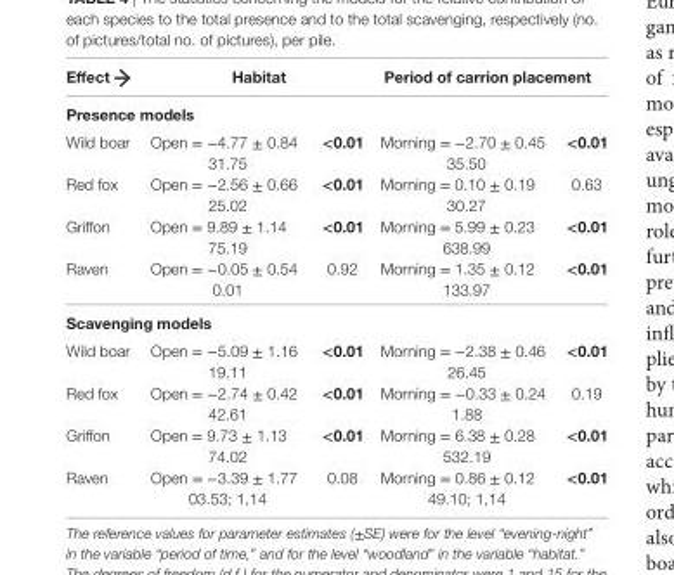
<table><thead><tr><td>effect</td><td colspan="2">habitat</td><td colspan="2">Period of carrion placement</td></tr><tr><td colspan="5">Presence models</td></tr><tr><td>Wild boar</td><td>Open = −4.77 ± 0.84 31.75</td><td>&lt;0.01</td><td>Morning = −2.70 ± 0.45 35.50</td><td>&lt;0.01</td></tr></thead><tbody><tr><td>Red fox</td><td>Open = −2.56 ± 0.66 25.02</td><td>&lt;0.01</td><td>Morning = 0.10 ± 0.19 30.27</td><td>0.63</td></tr><tr><td>Griffon</td><td>Open = 9.89 ± 1.14 75.19</td><td>&lt;0.01</td><td>Morning = 5.99 ± 0.23 638.99</td><td>&lt;0.01</td></tr><tr><td>Raven</td><td>Open = −0.05 ± 0.54 0.01</td><td>0.92</td><td>Morning = 1.35 ± 0.12 133.97</td><td>&lt;0.01</td></tr><tr><td colspan="5">scavenging models</td></tr><tr><td>Wild boar</td><td>Open = −5.09 ± 1.16 19.11</td><td>&lt;0.01</td><td>Morning = −2.38 ± 0.46 26.45</td><td>&lt;0.01</td></tr><tr><td>Red fox</td><td>Open = −2.74 ± 0.42 42.61</td><td>&lt;0.01</td><td>Morning = −0.33 ± 0.24 1.88</td><td>0.19</td></tr><tr><td>Griffon</td><td>Open = 9.73 ± 1.13 74.02</td><td>&lt;0.01</td><td>Morning = 6.38 ± 0.28 532.19</td><td>&lt;0.01</td></tr><tr><td>Raven</td><td>Open = −3.39 ± 1.77 03.53; 1,14</td><td>0.08</td><td>Morning = 0.86 ± 0.12 49.10; 1,14</td><td>&lt;0.01</td></tr></tbody></table>